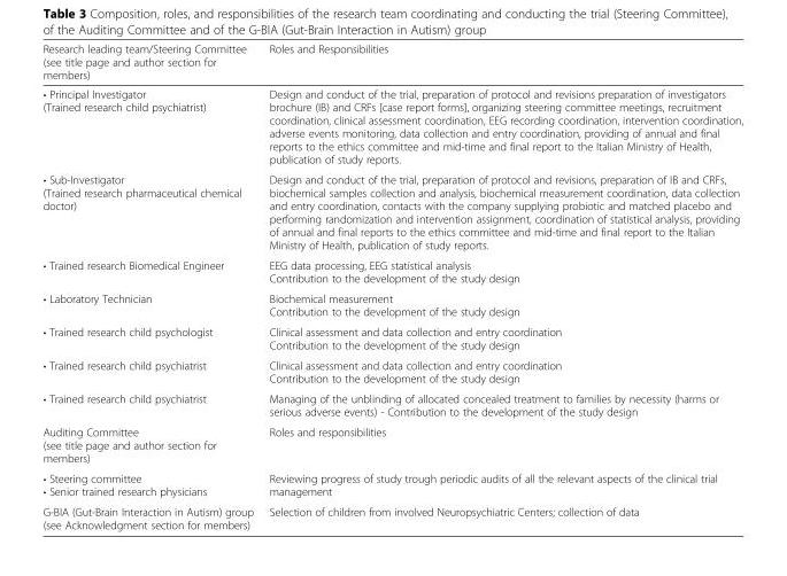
<table><thead><tr><td>Research leading team/Steering Committee (see title page and author section for members)</td><td>Roles and Responsibilities</td></tr></thead><tbody><tr><td>• Principal Investigator (Trained research child psychiatrist)</td><td>Design and conduct of the trial, preparation of protocol and revisions preparation of investigators brochure (IB) and CRFs [case report forms], organizing steering committee meetings, recruitment coordination, clinical assessment coordination, EEG recording coordination, intervention coordination, adverse events monitoring, data collection and entry coordination, providing of annual and final reports to the ethics committee and mid-time and final report to the Italian Ministry of Health, publication of study reports.</td></tr><tr><td>• Sub-Investigator (Trained research pharmaceutical chemical doctor)</td><td>Design and conduct of the trial, preparation of protocol and revisions, preparation of IB and CRFs, biochemical samples collection and analysis, biochemical measurement coordination, data collection and entry coordination, contacts with the company supplying probiotic and matched placebo and performing randomization and intervention assignment, coordination of statistical analysis, providing of annual and final reports to the ethics committee and mid-time and final report to the Italian Ministry of Health, publication of study reports.</td></tr><tr><td>• Trained research Biomedical Engineer</td><td>EEG data processing, EEG statistical analysis Contribution to the development of the study design</td></tr><tr><td>• Laboratory Technician</td><td>Biochemical measurement Contribution to the development of the study design</td></tr><tr><td>• Trained research child psychologist</td><td>Clinical assessment and data collection and entry coordination Contribution to the development of the study design</td></tr><tr><td>• Trained research child psychiatrist</td><td>Clinical assessment and data collection and entry coordination Contribution to the development of the study design</td></tr><tr><td>• Trained research child psychiatrist</td><td>Managing of the unblinding of allocated concealed treatment to families by necessity (harms or serious adverse events) - Contribution to the development of the study design</td></tr><tr><td>Auditing Committee (see title page and author section for members)</td><td>Roles and responsibilities</td></tr><tr><td>• Steering committee • Senior trained research physicians</td><td>Reviewing progress of study trough periodic audits of all the relevant aspects of the clinical trial management</td></tr><tr><td>G-BIA (Gut-Brain Interaction in Autism) group (see Acknowledgment section for members)</td><td>Selection of children from involved Neuropsychiatric Centers; collection of data</td></tr></tbody></table>